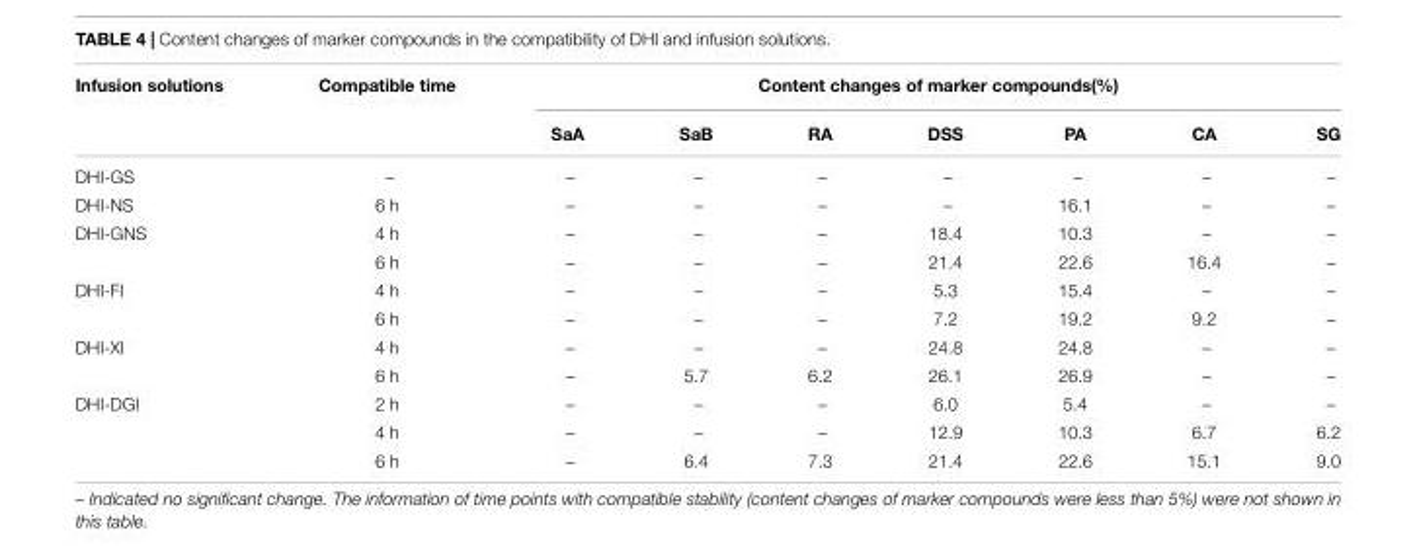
<table><thead><tr><td rowspan="2">Infusion solutions</td><td rowspan="2">Compatible time</td><td colspan="7">Content changes of marker compounds(%)</td></tr><tr><td>SaA</td><td>SaB</td><td>RA</td><td>DSS</td><td>PA</td><td>CA</td><td>SG</td></tr></thead><tbody><tr><td>DHI-GS</td><td>–</td><td>–</td><td>–</td><td>–</td><td>–</td><td>–</td><td>–</td><td>–</td></tr><tr><td>DHI-NS</td><td>6 h</td><td>–</td><td>–</td><td>–</td><td>–</td><td>16.1</td><td>–</td><td>–</td></tr><tr><td rowspan="2">DHI-GNS</td><td>4 h</td><td>–</td><td>–</td><td>–</td><td>18.4</td><td>10.3</td><td>–</td><td>–</td></tr><tr><td>6 h</td><td>–</td><td>–</td><td>–</td><td>21.4</td><td>22.6</td><td>16.4</td><td>–</td></tr><tr><td rowspan="2">DHI-FI</td><td>4 h</td><td>–</td><td>–</td><td>–</td><td>5.3</td><td>15.4</td><td>–</td><td>–</td></tr><tr><td>6 h</td><td>–</td><td>–</td><td>–</td><td>7.2</td><td>19.2</td><td>9.2</td><td>–</td></tr><tr><td rowspan="2">DHI-XI</td><td>4 h</td><td>–</td><td>–</td><td>–</td><td>24.8</td><td>24.8</td><td>–</td><td>–</td></tr><tr><td>6 h</td><td>–</td><td>5.7</td><td>6.2</td><td>26.1</td><td>26.9</td><td>–</td><td>–</td></tr><tr><td rowspan="3">DHI-DGI</td><td>2 h</td><td>–</td><td>–</td><td>–</td><td>6.0</td><td>5.4</td><td>–</td><td>–</td></tr><tr><td>4 h</td><td>–</td><td>–</td><td>–</td><td>12.9</td><td>10.3</td><td>6.7</td><td>6.2</td></tr><tr><td>6 h</td><td>–</td><td>6.4</td><td>7.3</td><td>21.4</td><td>22.6</td><td>15.1</td><td>9.0</td></tr></tbody></table>